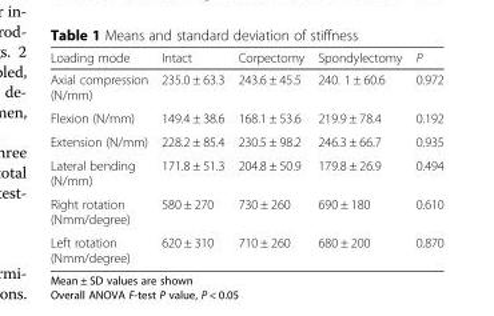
<table><thead><tr><td>Loading mode</td><td>Intact</td><td>Corpectomy</td><td>Spondylectomy</td><td>P</td></tr></thead><tbody><tr><td>Axial compression (N/mm)</td><td>235.0 ± 63.3</td><td>243.6 ± 45.5</td><td>240. 1 ± 60.6</td><td>0.972</td></tr><tr><td>Flexion (N/mm)</td><td>149.4 ± 38.6</td><td>168.1 ± 53.6</td><td>219.9 ± 78.4</td><td>0.192</td></tr><tr><td>Extension (N/mm)</td><td>228.2 ± 85.4</td><td>230.5 ± 98.2</td><td>246.3 ± 66.7</td><td>0.935</td></tr><tr><td>Lateral bending (N/mm)</td><td>171.8 ± 51.3</td><td>204.8 ± 50.9</td><td>179.8 ± 26.9</td><td>0.494</td></tr><tr><td>Right rotation (Nmm/degree)</td><td>580 ± 270</td><td>730 ± 260</td><td>690 ± 180</td><td>0.610</td></tr><tr><td>Left rotation (Nmm/degree)</td><td>620 ± 310</td><td>710 ± 260</td><td>680 ± 200</td><td>0.870</td></tr></tbody></table>